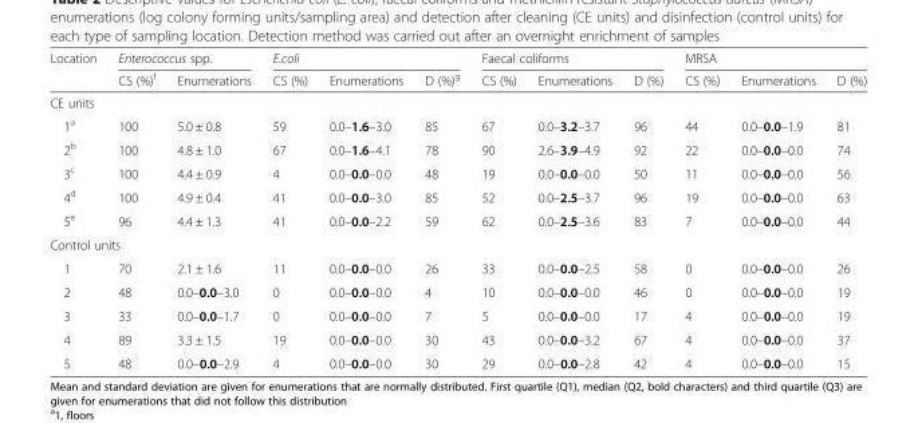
<table><thead><tr><td rowspan="2">Location</td><td colspan="2">Enterococcus spp.</td><td colspan="3">E.coli</td><td colspan="3">Faecal coliforms</td><td colspan="3">MRSA</td></tr><tr><td>CS (%)<sup>f</sup></td><td>Enumerations</td><td>CS (%)</td><td>Enumerations</td><td>D (%)<sup>g</sup></td><td>CS (%)</td><td>Enumerations</td><td>D (%)</td><td>CS (%)</td><td>Enumerations</td><td>D (%)</td></tr></thead><tbody><tr><td colspan="12">CE units</td></tr><tr><td>1<sup>a</sup></td><td>100</td><td>5.0 ± 0.8</td><td>59</td><td>0.0–1.6–3.0</td><td>85</td><td>67</td><td>0.0–3.2–3.7</td><td>96</td><td>44</td><td>0.0–0.0–1.9</td><td>81</td></tr><tr><td>2<sup>b</sup></td><td>100</td><td>4.8 ± 1.0</td><td>67</td><td>0.0–1.6–4.1</td><td>78</td><td>90</td><td>2.6–3.9–4.9</td><td>92</td><td>22</td><td>0.0–0.0–0.0</td><td>74</td></tr><tr><td>3<sup>c</sup></td><td>100</td><td>4.4 ± 0.9</td><td>4</td><td>0.0–0.0–0.0</td><td>48</td><td>19</td><td>0.0–0.0–0.0</td><td>50</td><td>11</td><td>0.0–0.0–0.0</td><td>56</td></tr><tr><td>4<sup>d</sup></td><td>100</td><td>4.9 ± 0.4</td><td>41</td><td>0.0–0.0–3.0</td><td>85</td><td>52</td><td>0.0–2.5–3.7</td><td>96</td><td>19</td><td>0.0–0.0–0.0</td><td>63</td></tr><tr><td>5<sup>e</sup></td><td>96</td><td>4.4 ± 1.3</td><td>41</td><td>0.0–0.0–2.2</td><td>59</td><td>62</td><td>0.0–2.5–3.6</td><td>83</td><td>7</td><td>0.0–0.0–0.0</td><td>44</td></tr><tr><td colspan="12">Control units</td></tr><tr><td>1</td><td>70</td><td>2.1 ± 1.6</td><td>11</td><td>0.0–0.0–0.0</td><td>26</td><td>33</td><td>0.0–0.0–2.5</td><td>58</td><td>0</td><td>0.0–0.0–0.0</td><td>26</td></tr><tr><td>2</td><td>48</td><td>0.0–0.0–3.0</td><td>0</td><td>0.0–0.0–0.0</td><td>4</td><td>10</td><td>0.0–0.0–0.0</td><td>46</td><td>0</td><td>0.0–0.0–0.0</td><td>19</td></tr><tr><td>3</td><td>33</td><td>0.0–0.0–1.7</td><td>0</td><td>0.0–0.0–0.0</td><td>7</td><td>5</td><td>0.0–0.0–0.0</td><td>17</td><td>4</td><td>0.0–0.0–0.0</td><td>19</td></tr><tr><td>4</td><td>89</td><td>3.3 ± 1.5</td><td>19</td><td>0.0–0.0–0.0</td><td>30</td><td>43</td><td>0.0–0.0–3.2</td><td>67</td><td>4</td><td>0.0–0.0–0.0</td><td>37</td></tr><tr><td>5</td><td>48</td><td>0.0–0.0–2.9</td><td>4</td><td>0.0–0.0–0.0</td><td>30</td><td>29</td><td>0.0–0.0–2.8</td><td>42</td><td>4</td><td>0.0–0.0–0.0</td><td>15</td></tr></tbody></table>